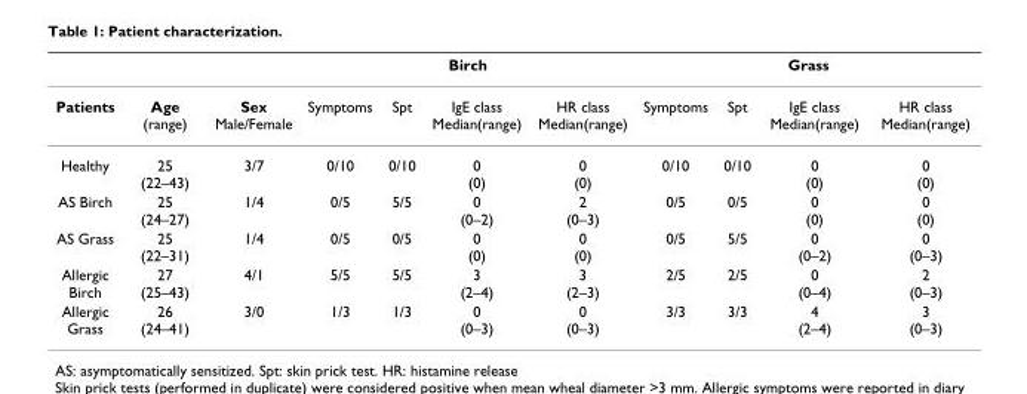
<table><thead><tr><td rowspan="2">Patients</td><td rowspan="2">Age (range)</td><td rowspan="2">Sex Male/Female</td><td colspan="4">Birch</td><td colspan="4">Grass</td></tr><tr><td>Symptoms</td><td>Spt</td><td>IgE class Median(range)</td><td>HR class Median(range)</td><td>Symptoms</td><td>Spt</td><td>IgE class Median(range)</td><td>HR class Median(range)</td></tr></thead><tbody><tr><td>Healthy</td><td>25 (22–43)</td><td>3/7</td><td>0/10</td><td>0/10</td><td>0 (0)</td><td>0 (0)</td><td>0/10</td><td>0/10</td><td>0 (0)</td><td>0 (0)</td></tr><tr><td>AS Birch</td><td>25 (24–27)</td><td>1/4</td><td>0/5</td><td>5/5</td><td>0 (0–2)</td><td>2 (0–3)</td><td>0/5</td><td>0/5</td><td>0 (0)</td><td>0 (0)</td></tr><tr><td>AS Grass</td><td>25 (22–31)</td><td>1/4</td><td>0/5</td><td>0/5</td><td>0 (0)</td><td>0 (0)</td><td>0/5</td><td>5/5</td><td>0 (0–2)</td><td>0 (0–3)</td></tr><tr><td>Allergic Birch</td><td>27 (25–43)</td><td>4/1</td><td>5/5</td><td>5/5</td><td>3 (2–4)</td><td>3 (2–3)</td><td>2/5</td><td>2/5</td><td>0 (0–4)</td><td>2 (0–3)</td></tr><tr><td>Allergic Grass</td><td>26 (24–41)</td><td>3/0</td><td>1/3</td><td>1/3</td><td>0 (0–3)</td><td>0 (0–3)</td><td>3/3</td><td>3/3</td><td>4 (2–4)</td><td>3 (0–3)</td></tr></tbody></table>